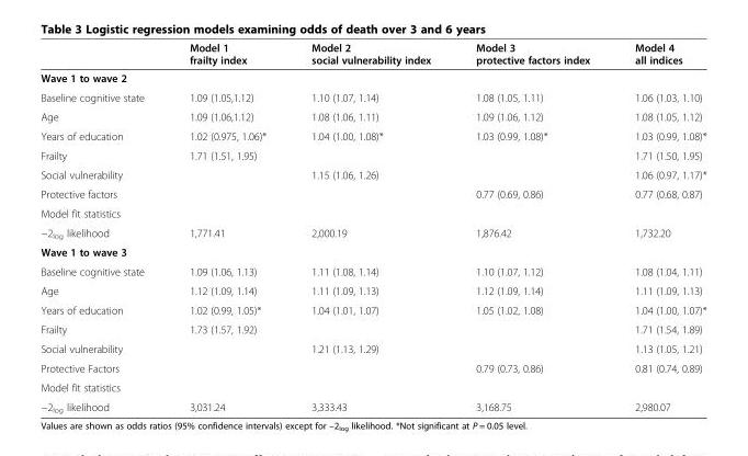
<table><thead><tr><td></td><td>Model 1 frailty index</td><td>Model 2 social vulnerability index</td><td>Model 3 protective factors index</td><td>Model 4 all indices</td></tr></thead><tbody><tr><td colspan="5">Wave 1 to wave 2</td></tr><tr><td>Baseline cognitive state</td><td>1.09 (1.05,1.12)</td><td>1.10 (1.07, 1.14)</td><td>1.08 (1.05, 1.11)</td><td>1.06 (1.03, 1.10)</td></tr><tr><td>Age</td><td>1.09 (1.06,1.12)</td><td>1.08 (1.06, 1.11)</td><td>1.09 (1.06, 1.12)</td><td>1.08 (1.05, 1.12)</td></tr><tr><td>Years of education</td><td>1.02 (0.975, 1.06)*</td><td>1.04 (1.00, 1.08)*</td><td>1.03 (0.99, 1.08)*</td><td>1.03 (0.99, 1.08)*</td></tr><tr><td>Frailty</td><td>1.71 (1.51, 1.95)</td><td></td><td></td><td>1.71 (1.50, 1.95)</td></tr><tr><td>Social vulnerability</td><td></td><td>1.15 (1.06, 1.26)</td><td></td><td>1.06 (0.97, 1.17)*</td></tr><tr><td>Protective factors</td><td></td><td></td><td>0.77 (0.69, 0.86)</td><td>0.77 (0.68, 0.87)</td></tr><tr><td colspan="5">Model fit statistics</td></tr><tr><td>−2<sub>log</sub> likelihood</td><td>1,771.41</td><td>2,000.19</td><td>1,876.42</td><td>1,732.20</td></tr><tr><td colspan="5">Wave 1 to wave 3</td></tr><tr><td>Baseline cognitive state</td><td>1.09 (1.06, 1.13)</td><td>1.11 (1.08, 1.14)</td><td>1.10 (1.07, 1.12)</td><td>1.08 (1.04, 1.11)</td></tr><tr><td>Age</td><td>1.12 (1.09, 1.14)</td><td>1.11 (1.09, 1.13)</td><td>1.12 (1.09, 1.14)</td><td>1.11 (1.09, 1.13)</td></tr><tr><td>Years of education</td><td>1.02 (0.99, 1.05)*</td><td>1.04 (1.01, 1.07)</td><td>1.05 (1.02, 1.08)</td><td>1.04 (1.00, 1.07)*</td></tr><tr><td>Frailty</td><td>1.73 (1.57, 1.92)</td><td></td><td></td><td>1.71 (1.54, 1.89)</td></tr><tr><td>Social vulnerability</td><td></td><td>1.21 (1.13, 1.29)</td><td></td><td>1.13 (1.05, 1.21)</td></tr><tr><td>Protective Factors</td><td></td><td></td><td>0.79 (0.73, 0.86)</td><td>0.81 (0.74, 0.89)</td></tr><tr><td colspan="5">Model fit statistics</td></tr><tr><td>−2<sub>log</sub> likelihood</td><td>3,031.24</td><td>3,333.43</td><td>3,168.75</td><td>2,980.07</td></tr></tbody></table>